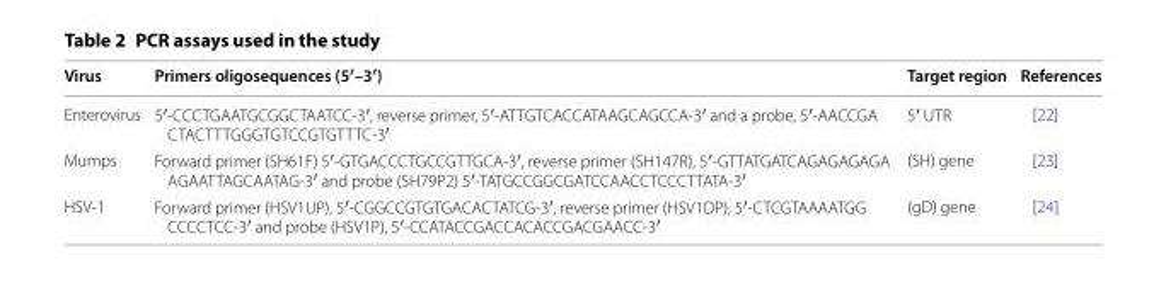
<table><thead><tr><td>Virus</td><td>Primers oligosequences (5′–3′)</td><td>Target region</td><td>References</td></tr></thead><tbody><tr><td>Enterovirus</td><td>5′-CCC TGA ATG CGG CTA ATC C-3′, reverse primer, 5′-ATT GTC ACC ATA AGC AGC CA-3′ and a probe, 5′-AAC CGA CTA CTT TGG GTG TCC GTG TTTC-3′</td><td>5′ UTR</td><td>[22]</td></tr><tr><td>Mumps</td><td>Forward primer (SH61F) 5′-GTG ACC CTG CCG TTGCA-3′, reverse primer (SH147R), 5′-GTT ATG ATC AGA GAG AGA AGA ATT AGC AAT AG-3′ and probe (SH79P2) 5′-TAT GCC GGC GAT CCA ACC TCC CTT ATA-3′</td><td>(SH) gene</td><td>[23]</td></tr><tr><td>HSV-1</td><td>Forward primer (HSV1UP), 5′-CGG CCG TGT GAC ACT ATC G-3′, reverse primer (HSV1DP), 5′-CTC GTA AAA TGG CCC CTC C-3′ and probe (HSV1P), 5′-CCA TAC CGA CCA CAC CGA CGA ACC -3′</td><td>(gD) gene</td><td>[24]</td></tr></tbody></table>